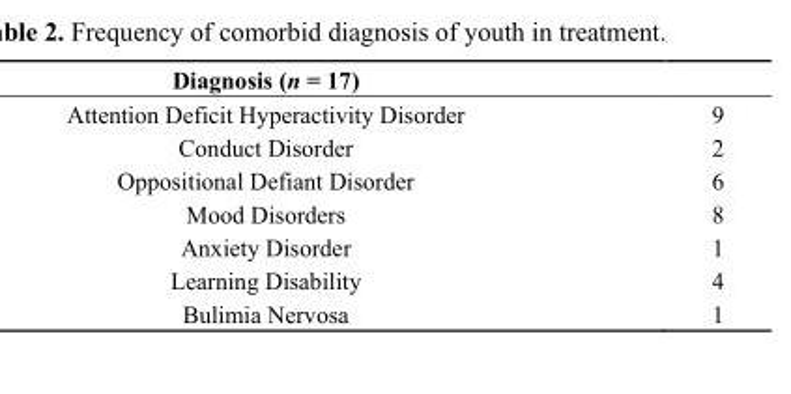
<table><thead><tr><td>Diagnosis (n = 17)</td><td></td></tr></thead><tbody><tr><td>Attention Deficit Hyperactivity Disorder</td><td>9</td></tr><tr><td>Conduct Disorder</td><td>2</td></tr><tr><td>Oppositional Defiant Disorder</td><td>6</td></tr><tr><td>Mood Disorders</td><td>8</td></tr><tr><td>Anxiety Disorder</td><td>1</td></tr><tr><td>Learning Disability</td><td>4</td></tr><tr><td>Bulimia Nervosa</td><td>1</td></tr></tbody></table>